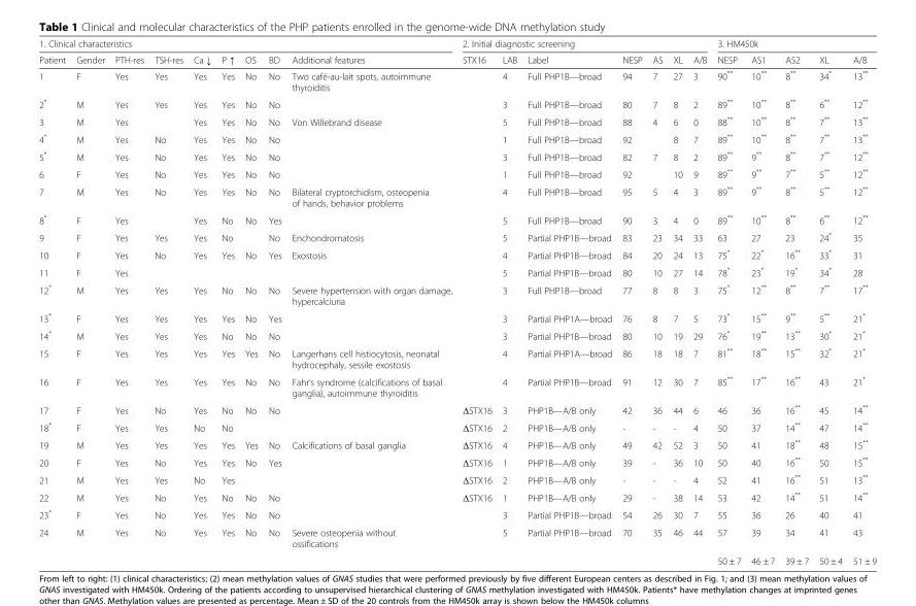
<table><thead><tr><td colspan="9">1. Clinical characteristics</td><td colspan="7">2. Initial diagnostic screening</td><td colspan="5">3. HM450k</td></tr><tr><td>Patient</td><td>Gender</td><td>PTH-res</td><td>TSH-res</td><td>Ca ↓</td><td>P ↑</td><td>OS</td><td>BD</td><td>Additional features</td><td>STX16</td><td>LAB</td><td>Label</td><td>NESP</td><td>AS</td><td>XL</td><td>A/B</td><td>NESP</td><td>AS1</td><td>AS2</td><td>XL</td><td>A/B</td></tr></thead><tbody><tr><td>1</td><td>F</td><td>Yes</td><td>Yes</td><td>Yes</td><td>Yes</td><td>No</td><td>No</td><td>Two café-au-lait spots, autoimmune thyroiditis</td><td rowspan="16"></td><td>4</td><td>Full PHP1B—broad</td><td>94</td><td>7</td><td>27</td><td>3</td><td>90**</td><td>10**</td><td>8**</td><td>34*</td><td>13**</td></tr><tr><td>2*</td><td>M</td><td>Yes</td><td>Yes</td><td>Yes</td><td>Yes</td><td>No</td><td>No</td><td></td><td>3</td><td>Full PHP1B—broad</td><td>80</td><td>7</td><td>8</td><td>2</td><td>89**</td><td>10**</td><td>8**</td><td>6**</td><td>12**</td></tr><tr><td>3</td><td>M</td><td>Yes</td><td></td><td>Yes</td><td>Yes</td><td>No</td><td>No</td><td>Von Willebrand disease</td><td>5</td><td>Full PHP1B—broad</td><td>88</td><td>4</td><td>6</td><td>0</td><td>88**</td><td>10**</td><td>8**</td><td>7**</td><td>13**</td></tr><tr><td>4*</td><td>M</td><td>Yes</td><td>No</td><td>Yes</td><td>Yes</td><td>No</td><td>No</td><td></td><td>1</td><td>Full PHP1B—broad</td><td>92</td><td></td><td>8</td><td>7</td><td>89**</td><td>10**</td><td>8**</td><td>7**</td><td>13**</td></tr><tr><td>5*</td><td>M</td><td>Yes</td><td>No</td><td>Yes</td><td>Yes</td><td>No</td><td>No</td><td></td><td>3</td><td>Full PHP1B—broad</td><td>82</td><td>7</td><td>8</td><td>2</td><td>89**</td><td>9**</td><td>8**</td><td>7**</td><td>12**</td></tr><tr><td>6</td><td>F</td><td>Yes</td><td>No</td><td>Yes</td><td>Yes</td><td>No</td><td>No</td><td></td><td>1</td><td>Full PHP1B—broad</td><td>92</td><td></td><td>10</td><td>9</td><td>89**</td><td>9**</td><td>7**</td><td>5**</td><td>12**</td></tr><tr><td>7</td><td>M</td><td>Yes</td><td>No</td><td>Yes</td><td>Yes</td><td>No</td><td>No</td><td>Bilateral cryptorchidism, osteopenia of hands, behavior problems</td><td>4</td><td>Full PHP1B—broad</td><td>95</td><td>5</td><td>4</td><td>3</td><td>89**</td><td>9**</td><td>8**</td><td>5**</td><td>12**</td></tr><tr><td>8*</td><td>F</td><td>Yes</td><td></td><td>Yes</td><td>No</td><td>No</td><td>Yes</td><td></td><td>5</td><td>Full PHP1B—broad</td><td>90</td><td>3</td><td>4</td><td>0</td><td>89**</td><td>10**</td><td>8**</td><td>6**</td><td>12**</td></tr><tr><td>9</td><td>F</td><td>Yes</td><td>Yes</td><td>Yes</td><td>No</td><td></td><td>No</td><td>Enchondromatosis</td><td>5</td><td>Partial PHP1B—broad</td><td>83</td><td>23</td><td>34</td><td>33</td><td>63</td><td>27</td><td>23</td><td>24*</td><td>35</td></tr><tr><td>10</td><td>F</td><td>Yes</td><td>No</td><td>Yes</td><td>Yes</td><td>No</td><td>Yes</td><td>Exostosis</td><td>4</td><td>Partial PHP1B—broad</td><td>84</td><td>20</td><td>24</td><td>13</td><td>75*</td><td>22*</td><td>16**</td><td>33*</td><td>31</td></tr><tr><td>11</td><td>F</td><td>Yes</td><td></td><td></td><td></td><td></td><td></td><td></td><td>5</td><td>Partial PHP1B—broad</td><td>80</td><td>10</td><td>27</td><td>14</td><td>78*</td><td>23*</td><td>19*</td><td>34*</td><td>28</td></tr><tr><td>12*</td><td>M</td><td>Yes</td><td>Yes</td><td>Yes</td><td>No</td><td>No</td><td>No</td><td>Severe hypertension with organ damage, hypercalciuria</td><td>3</td><td>Full PHP1B—broad</td><td>77</td><td>8</td><td>8</td><td>3</td><td>75*</td><td>12**</td><td>8**</td><td>7**</td><td>17**</td></tr><tr><td>13*</td><td>F</td><td>Yes</td><td>Yes</td><td>Yes</td><td>Yes</td><td>No</td><td>Yes</td><td></td><td>3</td><td>Partial PHP1A—broad</td><td>76</td><td>8</td><td>7</td><td>5</td><td>73*</td><td>15**</td><td>9**</td><td>5**</td><td>21*</td></tr><tr><td>14*</td><td>M</td><td>Yes</td><td>Yes</td><td>Yes</td><td>No</td><td>No</td><td>No</td><td></td><td>3</td><td>Partial PHP1B—broad</td><td>80</td><td>10</td><td>19</td><td>29</td><td>76*</td><td>19**</td><td>13**</td><td>30*</td><td>21*</td></tr><tr><td>15</td><td>F</td><td>Yes</td><td>Yes</td><td>Yes</td><td>Yes</td><td>Yes</td><td>No</td><td>Langerhans cell histiocytosis, neonatal hydrocephaly, sessile exostosis</td><td>4</td><td>Partial PHP1A—broad</td><td>86</td><td>18</td><td>18</td><td>7</td><td>81**</td><td>18**</td><td>15**</td><td>32*</td><td>21*</td></tr><tr><td>16</td><td>F</td><td>Yes</td><td>Yes</td><td>Yes</td><td>Yes</td><td>No</td><td>No</td><td>Fahr’s syndrome (calcifications of basal ganglia), autoimmune thyroiditis</td><td>4</td><td>Partial PHP1B—broad</td><td>91</td><td>12</td><td>30</td><td>7</td><td>85**</td><td>17**</td><td>16**</td><td>43</td><td>21*</td></tr><tr><td>17</td><td>F</td><td>Yes</td><td>No</td><td>Yes</td><td>No</td><td>No</td><td>No</td><td></td><td>ΔSTX16</td><td>3</td><td>PHP1B—A/B only</td><td>42</td><td>36</td><td>44</td><td>6</td><td>46</td><td>36</td><td>16**</td><td>45</td><td>14**</td></tr><tr><td>18*</td><td>F</td><td>Yes</td><td>Yes</td><td>No</td><td>No</td><td></td><td></td><td></td><td>ΔSTX16</td><td>2</td><td>PHP1B—A/B only</td><td>-</td><td>-</td><td>-</td><td>4</td><td>50</td><td>37</td><td>14**</td><td>47</td><td>14**</td></tr><tr><td>19</td><td>M</td><td>Yes</td><td>Yes</td><td>Yes</td><td>Yes</td><td>Yes</td><td>No</td><td>Calcifications of basal ganglia</td><td>ΔSTX16</td><td>4</td><td>PHP1B—A/B only</td><td>49</td><td>42</td><td>52</td><td>3</td><td>50</td><td>41</td><td>18**</td><td>48</td><td>15**</td></tr><tr><td>20</td><td>F</td><td>Yes</td><td>No</td><td>Yes</td><td>Yes</td><td>No</td><td>Yes</td><td></td><td>ΔSTX16</td><td>1</td><td>PHP1B—A/B only</td><td>39</td><td>-</td><td>36</td><td>10</td><td>50</td><td>40</td><td>16**</td><td>50</td><td>15**</td></tr><tr><td>21</td><td>M</td><td>Yes</td><td>Yes</td><td>No</td><td>Yes</td><td></td><td></td><td></td><td>ΔSTX16</td><td>2</td><td>PHP1B—A/B only</td><td>-</td><td>-</td><td>-</td><td>4</td><td>52</td><td>41</td><td>16**</td><td>51</td><td>13**</td></tr><tr><td>22</td><td>M</td><td>Yes</td><td>No</td><td>Yes</td><td>No</td><td>No</td><td>No</td><td></td><td>ΔSTX16</td><td>1</td><td>PHP1B—A/B only</td><td>29</td><td>-</td><td>38</td><td>14</td><td>53</td><td>42</td><td>14**</td><td>51</td><td>14**</td></tr><tr><td>23*</td><td>F</td><td>Yes</td><td>No</td><td>Yes</td><td>Yes</td><td>No</td><td>No</td><td></td><td></td><td>3</td><td>Partial PHP1B—broad</td><td>54</td><td>26</td><td>30</td><td>7</td><td>55</td><td>36</td><td>26</td><td>40</td><td>41</td></tr><tr><td>24</td><td>M</td><td>Yes</td><td>No</td><td>Yes</td><td>Yes</td><td>No</td><td>No</td><td>Severe osteopenia without ossifications</td><td></td><td>5</td><td>Partial PHP1B—broad</td><td>70</td><td>35</td><td>46</td><td>44</td><td>57</td><td>39</td><td>34</td><td>41</td><td>43</td></tr><tr><td colspan="16"></td><td>50 ± 7</td><td>46 ± 7</td><td>39 ± 7</td><td>50 ± 4</td><td>51 ± 9</td></tr></tbody></table>